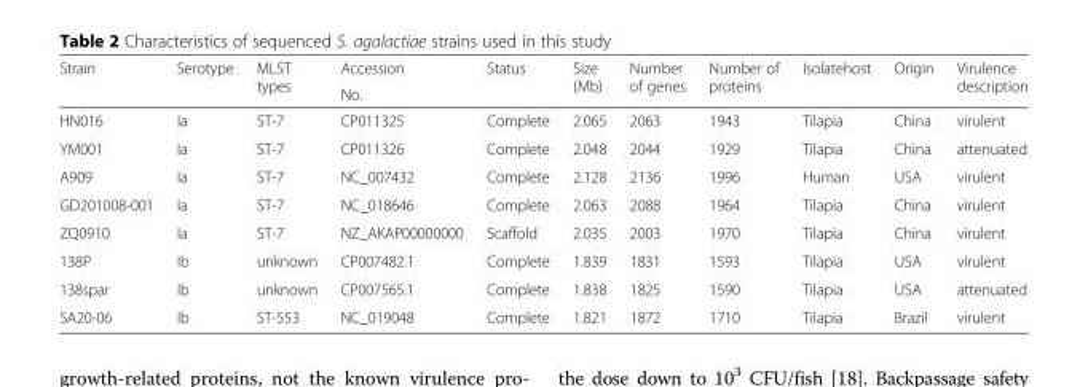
<table><thead><tr><td rowspan="2">Strain</td><td rowspan="2">Serotype</td><td rowspan="2">MLST types</td><td rowspan="2">Accession No.</td><td rowspan="2">Status</td><td rowspan="2">Size (Mb)</td><td rowspan="2">Number of genes</td><td rowspan="2">Number of proteins</td><td rowspan="2">Isolatehost</td><td rowspan="2">Origin</td><td rowspan="2">Virulence description</td></tr><tr></tr></thead><tbody><tr><td>HN016</td><td>Ia</td><td>ST-7</td><td>CP011325</td><td>Complete</td><td>2.065</td><td>2063</td><td>1943</td><td>Tilapia</td><td>China</td><td>virulent</td></tr><tr><td>YM001</td><td>Ia</td><td>ST-7</td><td>CP011326</td><td>Complete</td><td>2.048</td><td>2044</td><td>1929</td><td>Tilapia</td><td>China</td><td>attenuated</td></tr><tr><td>A909</td><td>Ia</td><td>ST-7</td><td>NC_007432</td><td>Complete</td><td>2.128</td><td>2136</td><td>1996</td><td>Human</td><td>USA</td><td>virulent</td></tr><tr><td>GD201008-001</td><td>Ia</td><td>ST-7</td><td>NC_018646</td><td>Complete</td><td>2.063</td><td>2088</td><td>1964</td><td>Tilapia</td><td>China</td><td>virulent</td></tr><tr><td>ZQ0910</td><td>Ia</td><td>ST-7</td><td>NZ_AKAP00000000</td><td>Scaffold</td><td>2.035</td><td>2003</td><td>1970</td><td>Tilapia</td><td>China</td><td>virulent</td></tr><tr><td>138P</td><td>Ib</td><td>unknown</td><td>CP007482.1</td><td>Complete</td><td>1.839</td><td>1831</td><td>1593</td><td>Tilapia</td><td>USA</td><td>virulent</td></tr><tr><td>138spar</td><td>Ib</td><td>unknown</td><td>CP007565.1</td><td>Complete</td><td>1.838</td><td>1825</td><td>1590</td><td>Tilapia</td><td>USA</td><td>attenuated</td></tr><tr><td>SA20-06</td><td>Ib</td><td>ST-553</td><td>NC_019048</td><td>Complete</td><td>1.821</td><td>1872</td><td>1710</td><td>Tilapia</td><td>Brazil</td><td>virulent</td></tr></tbody></table>